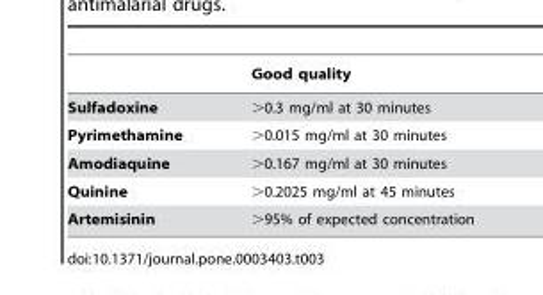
<table><thead><tr><td></td><td>Good quality</td></tr></thead><tbody><tr><td>Sulfadoxine</td><td>&gt;0.3 mg/ml at 30 minutes</td></tr><tr><td>Pyrimethamine</td><td>&gt;0.015 mg/ml at 30 minutes</td></tr><tr><td>Amodiaquine</td><td>&gt;0.167 mg/ml at 30 minutes</td></tr><tr><td>Quinine</td><td>&gt;0.2025 mg/ml at 45 minutes</td></tr><tr><td>Artemisinin</td><td>&gt;95% of expected concentration</td></tr></tbody></table>